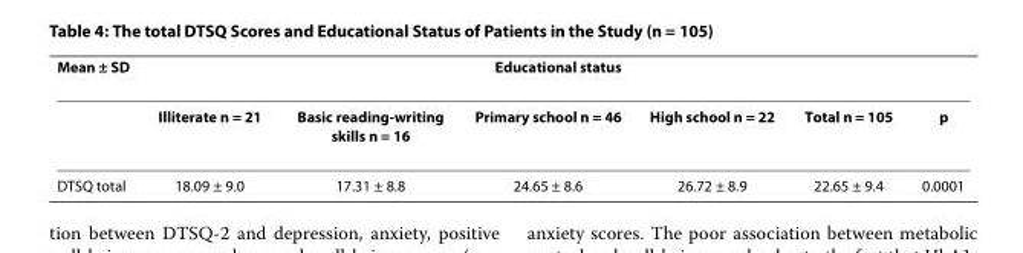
<table><thead><tr><td rowspan="2">Mean ± SD</td><td colspan="6">Educational status</td></tr><tr><td>Illiterate n = 21</td><td>Basic reading-writing skills n = 16</td><td>Primary school n = 46</td><td>High school n = 22</td><td>Total n = 105</td><td>p</td></tr></thead><tbody><tr><td>DTSQ total</td><td>18.09 ± 9.0</td><td>17.31 ± 8.8</td><td>24.65 ± 8.6</td><td>26.72 ± 8.9</td><td>22.65 ± 9.4</td><td>0.0001</td></tr></tbody></table>